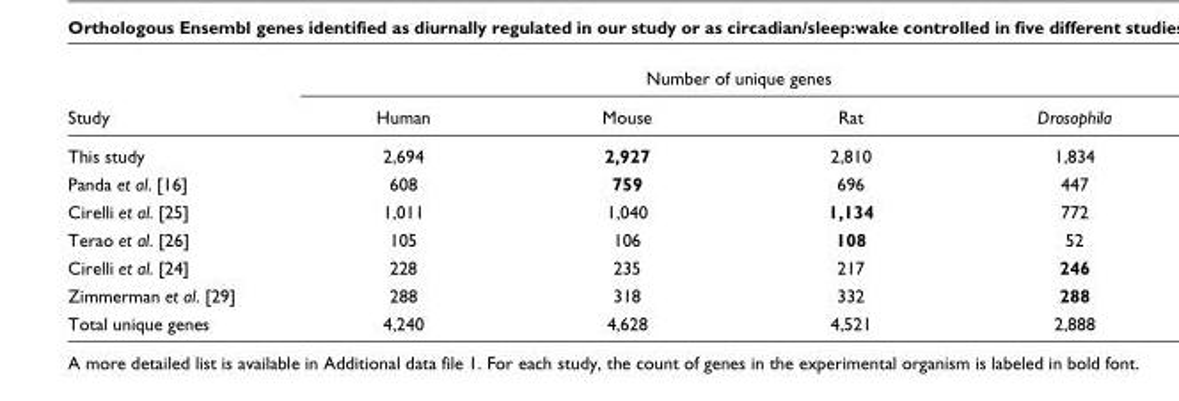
<table><thead><tr><td rowspan="2">Study</td><td colspan="4">Number of unique genes</td></tr><tr><td>Human</td><td>Mouse</td><td>Rat</td><td>Drosophila</td></tr></thead><tbody><tr><td>This study</td><td>2,694</td><td>2,927</td><td>2,810</td><td>1,834</td></tr><tr><td>Panda et al. [16]</td><td>608</td><td>759</td><td>696</td><td>447</td></tr><tr><td>Cirelli et al. [25]</td><td>1,011</td><td>1,040</td><td>1,134</td><td>772</td></tr><tr><td>Terao et al. [26]</td><td>105</td><td>106</td><td>108</td><td>52</td></tr><tr><td>Cirelli et al. [24]</td><td>228</td><td>235</td><td>217</td><td>246</td></tr><tr><td>Zimmerman et al. [29]</td><td>288</td><td>318</td><td>332</td><td>288</td></tr><tr><td>Total unique genes</td><td>4,240</td><td>4,628</td><td>4,521</td><td>2,888</td></tr></tbody></table>